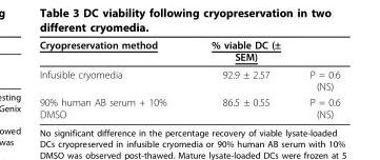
<table><thead><tr><td>Cryopreservation method</td><td>% viable DC (± SEM)</td><td></td></tr></thead><tbody><tr><td>Infusible cryomedia</td><td>92.9 ± 2.57</td><td>P = 0.6 (NS)</td></tr><tr><td>90% human AB serum + 10% DMSO</td><td>86.5 ± 0.55</td><td>P = 0.6 (NS)</td></tr></tbody></table>